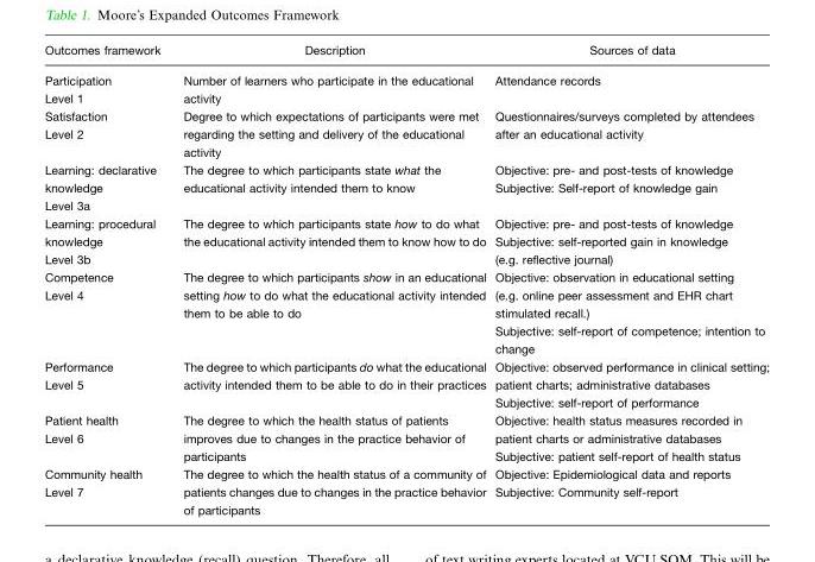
<table><thead><tr><td>Outcomes framework</td><td>Description</td><td>Sources of data</td></tr></thead><tbody><tr><td>Participation Level 1</td><td>Number of learners who participate in the educational activity</td><td>Attendance records</td></tr><tr><td>Satisfaction Level 2</td><td>Degree to which expectations of participants were met regarding the setting and delivery of the educational activity</td><td>Questionnaires/surveys completed by attendees after an educational activity</td></tr><tr><td>Learning: declarative knowledge Level 3a</td><td>The degree to which participants state what the educational activity intended them to know</td><td>Objective: pre- and post-tests of knowledge Subjective: Self-report of knowledge gain</td></tr><tr><td>Learning: procedural knowledge Level 3b</td><td>The degree to which participants state how to do what the educational activity intended them to know how to do</td><td>Objective: pre- and post-tests of knowledge Subjective: self-reported gain in knowledge (e.g. reflective journal)</td></tr><tr><td>Competence Level 4</td><td>The degree to which participants show in an educational setting how to do what the educational activity intended them to be able to do</td><td>Objective: observation in educational setting (e.g. online peer assessment and EHR chart stimulated recall.) Subjective: self-report of competence; intention to change</td></tr><tr><td>Performance Level 5</td><td>The degree to which participants do what the educational activity intended them to be able to do in their practices</td><td>Objective: observed performance in clinical setting; patient charts; administrative databases Subjective: self-report of performance</td></tr><tr><td>Patient health Level 6</td><td>The degree to which the health status of patients improves due to changes in the practice behavior of participants</td><td>Objective: health status measures recorded in patient charts or administrative databases Subjective: patient self-report of health status</td></tr><tr><td>Community health Level 7</td><td>The degree to which the health status of a community of patients changes due to changes in the practice behavior of participants</td><td>Objective: Epidemiological data and reports Subjective: Community self-report</td></tr></tbody></table>